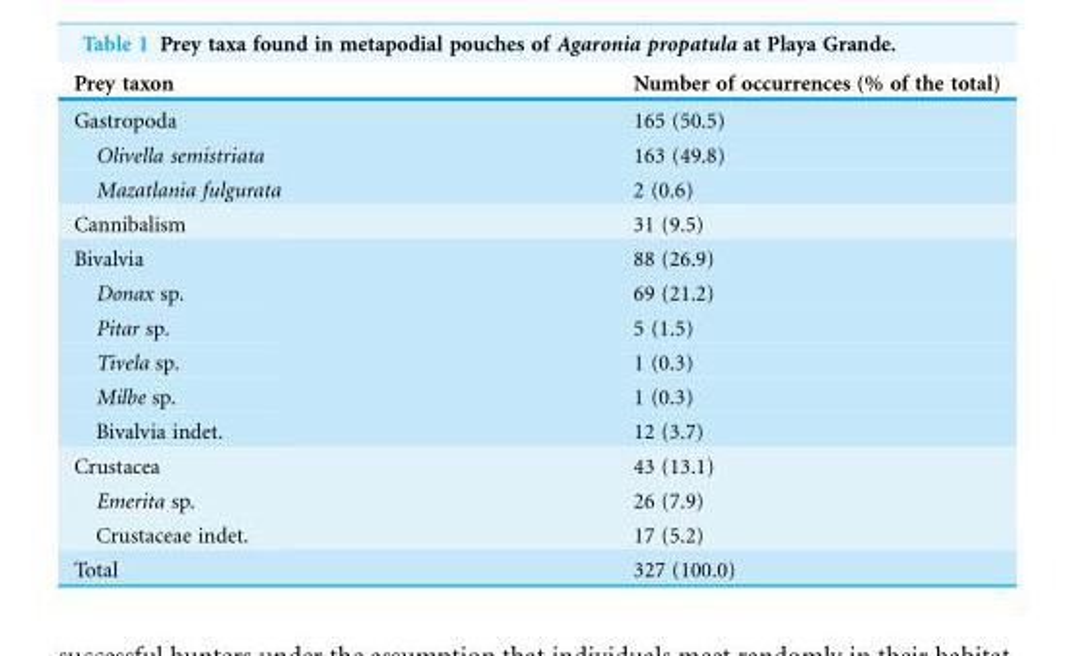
<table><thead><tr><td>Prey taxon</td><td>Number of occurrences (% of the total)</td></tr></thead><tbody><tr><td>Gastropoda</td><td>165 (50.5)</td></tr><tr><td>Olivella semistriata</td><td>163 (49.8)</td></tr><tr><td>Mazatlania fulgurata</td><td>2 (0.6)</td></tr><tr><td>Cannibalism</td><td>31 (9.5)</td></tr><tr><td>Bivalvia</td><td>88 (26.9)</td></tr><tr><td>Donax sp.</td><td>69 (21.2)</td></tr><tr><td>Pitar sp.</td><td>5 (1.5)</td></tr><tr><td>Tivela sp.</td><td>1 (0.3)</td></tr><tr><td>Milbe sp.</td><td>1 (0.3)</td></tr><tr><td>Bivalvia indet.</td><td>12 (3.7)</td></tr><tr><td>Crustacea</td><td>43 (13.1)</td></tr><tr><td>Emerita sp.</td><td>26 (7.9)</td></tr><tr><td>Crustaceae indet.</td><td>17 (5.2)</td></tr><tr><td>Total</td><td>327 (100.0)</td></tr></tbody></table>